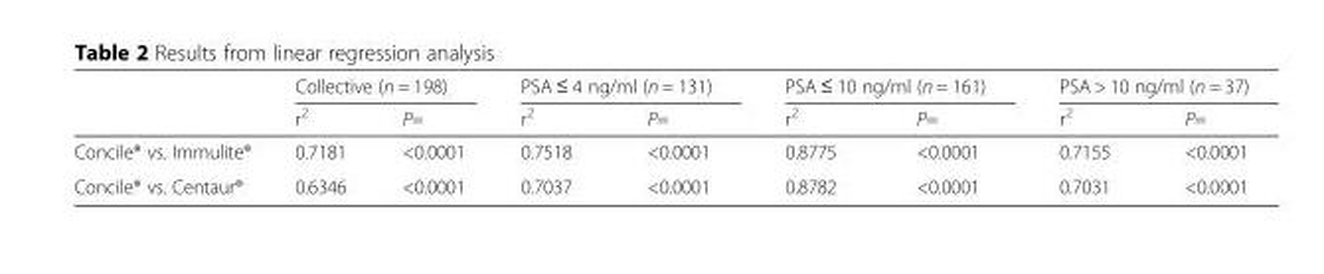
<table><thead><tr><td rowspan="2"></td><td colspan="2">Collective (n = 198)</td><td colspan="2">PSA ≤ 4 ng/ml (n = 131)</td><td colspan="2">PSA ≤ 10 ng/ml (n = 161)</td><td colspan="2">PSA &gt; 10 ng/ml (n = 37)</td></tr><tr><td>r<sup>2</sup></td><td>P=</td><td>r<sup>2</sup></td><td>P=</td><td>r<sup>2</sup></td><td>P=</td><td>r<sup>2</sup></td><td>P=</td></tr></thead><tbody><tr><td>Concile® vs. Immulite®</td><td>0.7181</td><td>&lt;0.0001</td><td>0.7518</td><td>&lt;0.0001</td><td>0.8775</td><td>&lt;0.0001</td><td>0.7155</td><td>&lt;0.0001</td></tr><tr><td>Concile® vs. Centaur®</td><td>0.6346</td><td>&lt;0.0001</td><td>0.7037</td><td>&lt;0.0001</td><td>0.8782</td><td>&lt;0.0001</td><td>0.7031</td><td>&lt;0.0001</td></tr></tbody></table>